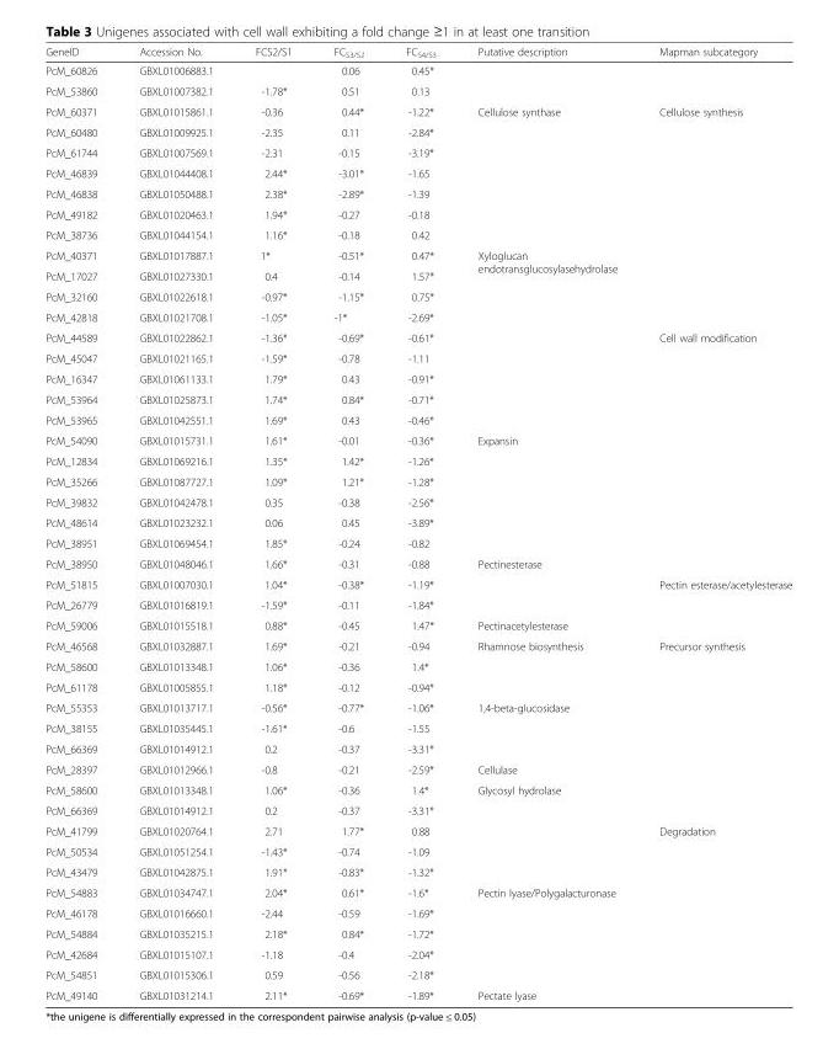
<table><thead><tr><td>GeneID</td><td>Accession No.</td><td>FCS2/S1</td><td>FC<sub>S3/S2</sub></td><td>FC<sub>S4/S3</sub></td><td>Putative description</td><td>Mapman subcategory</td></tr></thead><tbody><tr><td>PcM_60826</td><td>GBXL01006883.1</td><td></td><td>0.06</td><td>0.45*</td><td></td><td></td></tr><tr><td>PcM_53860</td><td>GBXL01007382.1</td><td>-1.78*</td><td>0.51</td><td>0.13</td><td></td><td></td></tr><tr><td>PcM_60371</td><td>GBXL01015861.1</td><td>-0.36</td><td>0.44*</td><td>-1.22*</td><td>Cellulose synthase</td><td>Cellulose synthesis</td></tr><tr><td>PcM_60480</td><td>GBXL01009925.1</td><td>-2.35</td><td>0.11</td><td>-2.84*</td><td></td><td></td></tr><tr><td>PcM_61744</td><td>GBXL01007569.1</td><td>-2.31</td><td>-0.15</td><td>-3.19*</td><td></td><td></td></tr><tr><td>PcM_46839</td><td>GBXL01044408.1</td><td>2.44*</td><td>-3.01*</td><td>-1.65</td><td></td><td></td></tr><tr><td>PcM_46838</td><td>GBXL01050488.1</td><td>2.38*</td><td>-2.89*</td><td>-1.39</td><td></td><td></td></tr><tr><td>PcM_49182</td><td>GBXL01020463.1</td><td>1.94*</td><td>-0.27</td><td>-0.18</td><td></td><td></td></tr><tr><td>PcM_38736</td><td>GBXL01044154.1</td><td>1.16*</td><td>-0.18</td><td>0.42</td><td></td><td></td></tr><tr><td>PcM_40371</td><td>GBXL01017887.1</td><td>1*</td><td>-0.51*</td><td>0.47*</td><td rowspan="3">Xyloglucan endotransglucosylasehydrolase</td><td></td></tr><tr><td>PcM_17027</td><td>GBXL01027330.1</td><td>0.4</td><td>-0.14</td><td>1.57*</td><td></td></tr><tr><td>PcM_32160</td><td>GBXL01022618.1</td><td>-0.97*</td><td>-1.15*</td><td>0.75*</td><td></td></tr><tr><td>PcM_42818</td><td>GBXL01021708.1</td><td>-1.05*</td><td>-1*</td><td>-2.69*</td><td></td><td></td></tr><tr><td>PcM_44589</td><td>GBXL01022862.1</td><td>-1.36*</td><td>-0.69*</td><td>-0.61*</td><td></td><td rowspan="2">Cell wall modification</td></tr><tr><td>PcM_45047</td><td>GBXL01021165.1</td><td>-1.59*</td><td>-0.78</td><td>-1.11</td><td></td></tr><tr><td>PcM_16347</td><td>GBXL01061133.1</td><td>1.79*</td><td>0.43</td><td>-0.91*</td><td></td><td></td></tr><tr><td>PcM_53964</td><td>GBXL01025873.1</td><td>1.74*</td><td>0.84*</td><td>-0.71*</td><td></td><td></td></tr><tr><td>PcM_53965</td><td>GBXL01042551.1</td><td>1.69*</td><td>0.43</td><td>-0.46*</td><td></td><td></td></tr><tr><td>PcM_54090</td><td>GBXL01015731.1</td><td>1.61*</td><td>-0.01</td><td>-0.36*</td><td rowspan="2">Expansin</td><td></td></tr><tr><td>PcM_12834</td><td>GBXL01069216.1</td><td>1.35*</td><td>1.42*</td><td>-1.26*</td><td></td></tr><tr><td>PcM_35266</td><td>GBXL01087727.1</td><td>1.09*</td><td>1.21*</td><td>-1.28*</td><td></td><td></td></tr><tr><td>PcM_39832</td><td>GBXL01042478.1</td><td>0.35</td><td>-0.38</td><td>-2.56*</td><td></td><td></td></tr><tr><td>PcM_48614</td><td>GBXL01023232.1</td><td>0.06</td><td>0.45</td><td>-3.89*</td><td></td><td></td></tr><tr><td>PcM_38951</td><td>GBXL01069454.1</td><td>1.85*</td><td>-0.24</td><td>-0.82</td><td></td><td></td></tr><tr><td>PcM_38950</td><td>GBXL01048046.1</td><td>1.66*</td><td>-0.31</td><td>-0.88</td><td rowspan="2">Pectinesterase</td><td></td></tr><tr><td>PcM_51815</td><td>GBXL01007030.1</td><td>1.04*</td><td>-0.38*</td><td>-1.19*</td><td>Pectin esterase/acetylesterase</td></tr><tr><td>PcM_26779</td><td>GBXL01016819.1</td><td>-1.59*</td><td>-0.11</td><td>-1.84*</td><td></td><td></td></tr><tr><td>PcM_59006</td><td>GBXL01015518.1</td><td>0.88*</td><td>-0.45</td><td>1.47*</td><td>Pectinacetylesterase</td><td></td></tr><tr><td>PcM_46568</td><td>GBXL01032887.1</td><td>1.69*</td><td>-0.21</td><td>-0.94</td><td>Rhamnose biosynthesis</td><td>Precursor synthesis</td></tr><tr><td>PcM_58600</td><td>GBXL01013348.1</td><td>1.06*</td><td>-0.36</td><td>1.4*</td><td></td><td></td></tr><tr><td>PcM_61178</td><td>GBXL01005855.1</td><td>1.18*</td><td>-0.12</td><td>-0.94*</td><td></td><td></td></tr><tr><td>PcM_55353</td><td>GBXL01013717.1</td><td>-0.56*</td><td>-0.77*</td><td>-1.06*</td><td>1,4-beta-glucosidase</td><td></td></tr><tr><td>PcM_38155</td><td>GBXL01035445.1</td><td>-1.61*</td><td>-0.6</td><td>-1.55</td><td></td><td></td></tr><tr><td>PcM_66369</td><td>GBXL01014912.1</td><td>0.2</td><td>-0.37</td><td>-3.31*</td><td></td><td></td></tr><tr><td>PcM_28397</td><td>GBXL01012966.1</td><td>-0.8</td><td>-0.21</td><td>-2.59*</td><td>Cellulase</td><td></td></tr><tr><td>PcM_58600</td><td>GBXL01013348.1</td><td>1.06*</td><td>-0.36</td><td>1.4*</td><td>Glycosyl hydrolase</td><td></td></tr><tr><td>PcM_66369</td><td>GBXL01014912.1</td><td>0.2</td><td>-0.37</td><td>-3.31*</td><td></td><td></td></tr><tr><td>PcM_41799</td><td>GBXL01020764.1</td><td>2.71</td><td>1.77*</td><td>0.88</td><td></td><td>Degradation</td></tr><tr><td>PcM_50534</td><td>GBXL01051254.1</td><td>-1.43*</td><td>-0.74</td><td>-1.09</td><td></td><td></td></tr><tr><td>PcM_43479</td><td>GBXL01042875.1</td><td>1.91*</td><td>-0.83*</td><td>-1.32*</td><td></td><td></td></tr><tr><td>PcM_54883</td><td>GBXL01034747.1</td><td>2.04*</td><td>0.61*</td><td>-1.6*</td><td rowspan="2">Pectin lyase/Polygalacturonase</td><td></td></tr><tr><td>PcM_46178</td><td>GBXL01016660.1</td><td>-2.44</td><td>-0.59</td><td>-1.69*</td><td></td></tr><tr><td>PcM_54884</td><td>GBXL01035215.1</td><td>2.18*</td><td>0.84*</td><td>-1.72*</td><td></td><td></td></tr><tr><td>PcM_42684</td><td>GBXL01015107.1</td><td>-1.18</td><td>-0.4</td><td>-2.04*</td><td></td><td></td></tr><tr><td>PcM_54851</td><td>GBXL01015306.1</td><td>0.59</td><td>-0.56</td><td>-2.18*</td><td></td><td></td></tr><tr><td>PcM_49140</td><td>GBXL01031214.1</td><td>2.11*</td><td>-0.69*</td><td>-1.89*</td><td>Pectate lyase</td><td></td></tr></tbody></table>